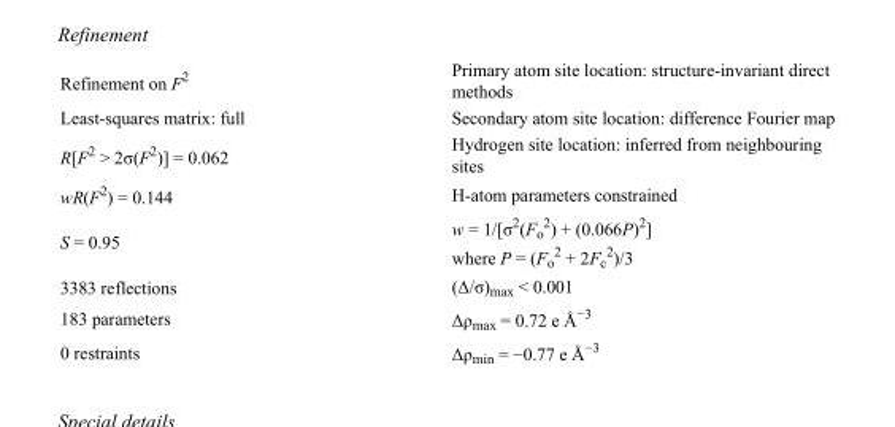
<table><tbody><tr><td>Refinement on F<sup>2</sup></td><td>Primary atom site location: structure-invariant direct methods</td></tr><tr><td>Least-squares matrix: full</td><td>Secondary atom site location: difference Fourier map</td></tr><tr><td>R[F<sup>2</sup> &gt; 2σ(F<sup>2</sup>)] = 0.062</td><td>Hydrogen site location: inferred from neighbouring sites</td></tr><tr><td>wR(F<sup>2</sup>) = 0.144</td><td>H-atom parameters constrained</td></tr><tr><td>S = 0.95</td><td>w = 1/[σ<sup>2</sup>(F<sub>o</sub> <sup>2</sup>) + (0.066P)<sup>2</sup>] where P = (F<sub>o</sub> <sup>2</sup> + 2F<sub>c</sub> <sup>2</sup>)/3</td></tr><tr><td>3383 reflections</td><td>(Δ/σ)<sub>max</sub> &lt; 0.001</td></tr><tr><td>183 parameters</td><td>Δρ<sub>max</sub> = 0.72 e Å<sup>−3</sup></td></tr><tr><td>0 restraints</td><td>Δρ<sub>min</sub> = −0.77 e Å<sup>−3</sup></td></tr></tbody></table>